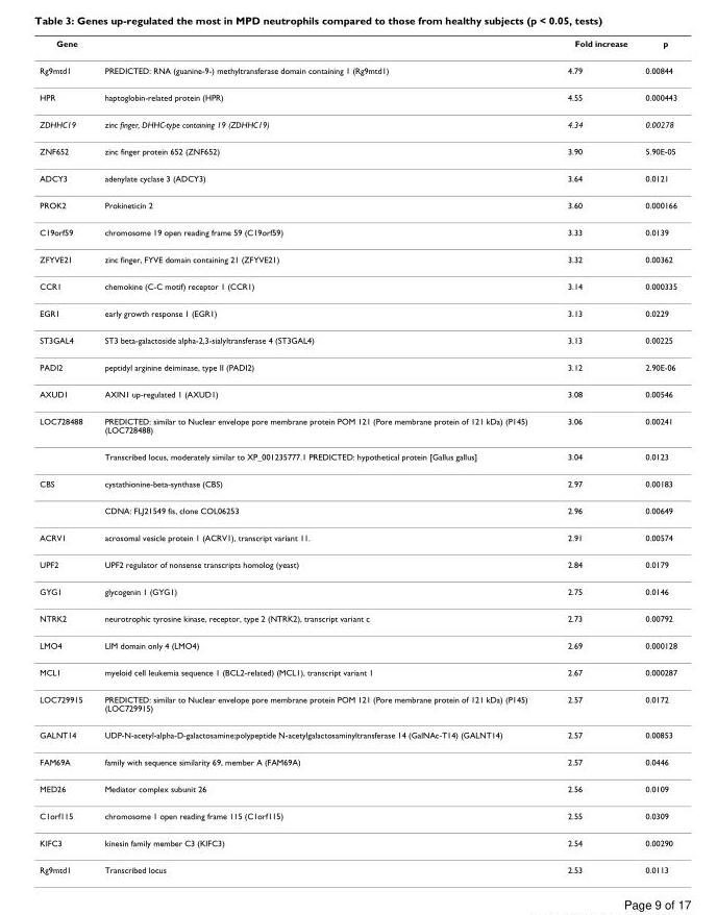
<table><thead><tr><td>Gene</td><td></td><td>Fold increase</td><td>p</td></tr></thead><tbody><tr><td>Rg9mtd1</td><td>PREDICTED: RNA (guanine-9-) methyltransferase domain containing 1 (Rg9mtd1)</td><td>4.79</td><td>0.00844</td></tr><tr><td>HPR</td><td>haptoglobin-related protein (HPR)</td><td>4.55</td><td>0.000443</td></tr><tr><td>ZDHHC19</td><td>zinc finger, DHHC-type containing 19 (ZDHHC19)</td><td>4.34</td><td>0.00278</td></tr><tr><td>ZNF652</td><td>zinc finger protein 652 (ZNF652)</td><td>3.90</td><td>5.90E-05</td></tr><tr><td>ADCY3</td><td>adenylate cyclase 3 (ADCY3)</td><td>3.64</td><td>0.0121</td></tr><tr><td>PROK2</td><td>Prokineticin 2</td><td>3.60</td><td>0.000166</td></tr><tr><td>C19orf59</td><td>chromosome 19 open reading frame 59 (C19orf59)</td><td>3.33</td><td>0.0139</td></tr><tr><td>ZFYVE21</td><td>zinc finger, FYVE domain containing 21 (ZFYVE21)</td><td>3.32</td><td>0.00362</td></tr><tr><td>CCR1</td><td>chemokine (C-C motif) receptor 1 (CCR1)</td><td>3.14</td><td>0.000335</td></tr><tr><td>EGR1</td><td>early growth response 1 (EGR1)</td><td>3.13</td><td>0.0229</td></tr><tr><td>ST3GAL4</td><td>ST3 beta-galactoside alpha-2,3-sialyltransferase 4 (ST3GAL4)</td><td>3.13</td><td>0.00225</td></tr><tr><td>PADI2</td><td>peptidyl arginine deiminase, type II (PADI2)</td><td>3.12</td><td>2.90E-06</td></tr><tr><td>AXUD1</td><td>AXIN1 up-regulated 1 (AXUD1)</td><td>3.08</td><td>0.00546</td></tr><tr><td rowspan="2">LOC728488</td><td>PREDICTED: similar to Nuclear envelope pore membrane protein POM 121 (Pore membrane protein of 121 kDa) (P145) (LOC728488)</td><td>3.06</td><td>0.00241</td></tr><tr><td>Transcribed locus, moderately similar to XP_001235777.1 PREDICTED: hypothetical protein [Gallus gallus]</td><td>3.04</td><td>0.0123</td></tr><tr><td rowspan="2">CBS</td><td>cystathionine-beta-synthase (CBS)</td><td>2.97</td><td>0.00183</td></tr><tr><td>CDNA: FLJ21549 fis, clone COL06253</td><td>2.96</td><td>0.00649</td></tr><tr><td>ACRV1</td><td>acrosomal vesicle protein 1 (ACRV1), transcript variant 11.</td><td>2.91</td><td>0.00574</td></tr><tr><td>UPF2</td><td>UPF2 regulator of nonsense transcripts homolog (yeast)</td><td>2.84</td><td>0.0179</td></tr><tr><td>GYG1</td><td>glycogenin 1 (GYG1)</td><td>2.75</td><td>0.0146</td></tr><tr><td>NTRK2</td><td>neurotrophic tyrosine kinase, receptor, type 2 (NTRK2), transcript variant c</td><td>2.73</td><td>0.00792</td></tr><tr><td>LMO4</td><td>LIM domain only 4 (LMO4)</td><td>2.69</td><td>0.000128</td></tr><tr><td>MCL1</td><td>myeloid cell leukemia sequence 1 (BCL2-related) (MCL1), transcript variant 1</td><td>2.67</td><td>0.000287</td></tr><tr><td>LOC729915</td><td>PREDICTED: similar to Nuclear envelope pore membrane protein POM 121 (Pore membrane protein of 121 kDa) (P145) (LOC729915)</td><td>2.57</td><td>0.0172</td></tr><tr><td>GALNT14</td><td>UDP-N-acetyl-alpha-D-galactosamine:polypeptide N-acetylgalactosaminyltransferase 14 (GalNAc-T14) (GALNT14)</td><td>2.57</td><td>0.00853</td></tr><tr><td>FAM69A</td><td>family with sequence similarity 69, member A (FAM69A)</td><td>2.57</td><td>0.0446</td></tr><tr><td>MED26</td><td>Mediator complex subunit 26</td><td>2.56</td><td>0.0109</td></tr><tr><td>C1orf115</td><td>chromosome 1 open reading frame 115 (C1orf115)</td><td>2.55</td><td>0.0309</td></tr><tr><td>KIFC3</td><td>kinesin family member C3 (KIFC3)</td><td>2.54</td><td>0.00290</td></tr><tr><td>Rg9mtd1</td><td>Transcribed locus</td><td>2.53</td><td>0.0113</td></tr></tbody></table>